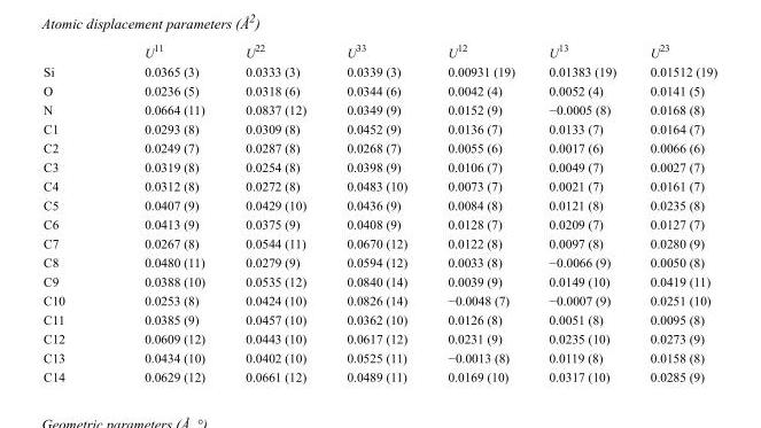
<table><thead><tr><td></td><td>U<sup>11</sup></td><td>U<sup>22</sup></td><td>U<sup>33</sup></td><td>U<sup>12</sup></td><td>U<sup>13</sup></td><td>U<sup>23</sup></td></tr></thead><tbody><tr><td>Si</td><td>0.0365 (3)</td><td>0.0333 (3)</td><td>0.0339 (3)</td><td>0.00931 (19)</td><td>0.01383 (19)</td><td>0.01512 (19)</td></tr><tr><td>O</td><td>0.0236 (5)</td><td>0.0318 (6)</td><td>0.0344 (6)</td><td>0.0042 (4)</td><td>0.0052 (4)</td><td>0.0141 (5)</td></tr><tr><td>N</td><td>0.0664 (11)</td><td>0.0837 (12)</td><td>0.0349 (9)</td><td>0.0152 (9)</td><td>−0.0005 (8)</td><td>0.0168 (8)</td></tr><tr><td>C1</td><td>0.0293 (8)</td><td>0.0309 (8)</td><td>0.0452 (9)</td><td>0.0136 (7)</td><td>0.0133 (7)</td><td>0.0164 (7)</td></tr><tr><td>C2</td><td>0.0249 (7)</td><td>0.0287 (8)</td><td>0.0268 (7)</td><td>0.0055 (6)</td><td>0.0017 (6)</td><td>0.0066 (6)</td></tr><tr><td>C3</td><td>0.0319 (8)</td><td>0.0254 (8)</td><td>0.0398 (9)</td><td>0.0106 (7)</td><td>0.0049 (7)</td><td>0.0027 (7)</td></tr><tr><td>C4</td><td>0.0312 (8)</td><td>0.0272 (8)</td><td>0.0483 (10)</td><td>0.0073 (7)</td><td>0.0021 (7)</td><td>0.0161 (7)</td></tr><tr><td>C5</td><td>0.0407 (9)</td><td>0.0429 (10)</td><td>0.0436 (9)</td><td>0.0084 (8)</td><td>0.0121 (8)</td><td>0.0235 (8)</td></tr><tr><td>C6</td><td>0.0413 (9)</td><td>0.0375 (9)</td><td>0.0408 (9)</td><td>0.0128 (7)</td><td>0.0209 (7)</td><td>0.0127 (7)</td></tr><tr><td>C7</td><td>0.0267 (8)</td><td>0.0544 (11)</td><td>0.0670 (12)</td><td>0.0122 (8)</td><td>0.0097 (8)</td><td>0.0280 (9)</td></tr><tr><td>C8</td><td>0.0480 (11)</td><td>0.0279 (9)</td><td>0.0594 (12)</td><td>0.0033 (8)</td><td>−0.0066 (9)</td><td>0.0050 (8)</td></tr><tr><td>C9</td><td>0.0388 (10)</td><td>0.0535 (12)</td><td>0.0840 (14)</td><td>0.0039 (9)</td><td>0.0149 (10)</td><td>0.0419 (11)</td></tr><tr><td>C10</td><td>0.0253 (8)</td><td>0.0424 (10)</td><td>0.0826 (14)</td><td>−0.0048 (7)</td><td>−0.0007 (9)</td><td>0.0251 (10)</td></tr><tr><td>C11</td><td>0.0385 (9)</td><td>0.0457 (10)</td><td>0.0362 (10)</td><td>0.0126 (8)</td><td>0.0051 (8)</td><td>0.0095 (8)</td></tr><tr><td>C12</td><td>0.0609 (12)</td><td>0.0443 (10)</td><td>0.0617 (12)</td><td>0.0231 (9)</td><td>0.0235 (10)</td><td>0.0273 (9)</td></tr><tr><td>C13</td><td>0.0434 (10)</td><td>0.0402 (10)</td><td>0.0525 (11)</td><td>−0.0013 (8)</td><td>0.0119 (8)</td><td>0.0158 (8)</td></tr><tr><td>C14</td><td>0.0629 (12)</td><td>0.0661 (12)</td><td>0.0489 (11)</td><td>0.0169 (10)</td><td>0.0317 (10)</td><td>0.0285 (9)</td></tr></tbody></table>